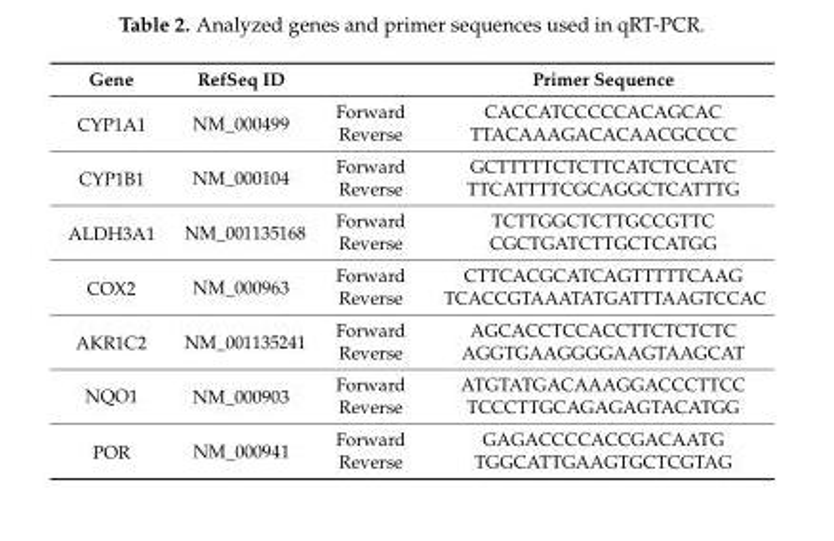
<table><thead><tr><td>Gene</td><td>RefSeq ID</td><td></td><td>Primer Sequence</td></tr></thead><tbody><tr><td rowspan="2">CYP1A1</td><td rowspan="2">NM_000499</td><td>Forward</td><td>CACCATCCCCCACAGCAC</td></tr><tr><td>Reverse</td><td>TTACAAAGACACAACGCCCC</td></tr><tr><td rowspan="2">CYP1B1</td><td rowspan="2">NM_000104</td><td>Forward</td><td>GCTTTTTCTCTTCATCTCCATC</td></tr><tr><td>Reverse</td><td>TTCATTTTCGCAGGCTCATTTG</td></tr><tr><td rowspan="2">ALDH3A1</td><td rowspan="2">NM_001135168</td><td>Forward</td><td>TCTTGGCTCTTGCCGTTC</td></tr><tr><td>Reverse</td><td>CGCTGATCTTGCTCATGG</td></tr><tr><td rowspan="2">COX2</td><td rowspan="2">NM_000963</td><td>Forward</td><td>CTTCACGCATCAGTTTTTCAAG</td></tr><tr><td>Reverse</td><td>TCACCGTAAATATGATTTAAGTCCAC</td></tr><tr><td rowspan="2">AKR1C2</td><td rowspan="2">NM_001135241</td><td>Forward</td><td>AGCACCTCCACCTTCTCTCTC</td></tr><tr><td>Reverse</td><td>AGGTGAAGGGGAAGTAAGCAT</td></tr><tr><td rowspan="2">NQO1</td><td rowspan="2">NM_000903</td><td>Forward</td><td>ATGTATGACAAAGGACCCTTCC</td></tr><tr><td>Reverse</td><td>TCCCTTGCAGAGAGTACATGG</td></tr><tr><td rowspan="2">POR</td><td rowspan="2">NM_000941</td><td>Forward</td><td>GAGACCCCACCGACAATG</td></tr><tr><td>Reverse</td><td>TGGCATTGAAGTGCTCGTAG</td></tr></tbody></table>